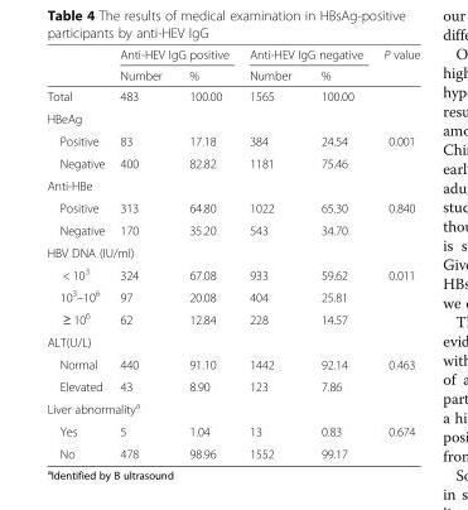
<table><thead><tr><td rowspan="2"></td><td colspan="2">Anti-HEV IgG positive</td><td colspan="2">Anti-HEV IgG negative</td><td rowspan="2">P value</td></tr><tr><td>Number</td><td>%</td><td>Number</td><td>%</td></tr></thead><tbody><tr><td>Total</td><td>483</td><td>100.00</td><td>1565</td><td>100.00</td><td></td></tr><tr><td colspan="6">HBeAg</td></tr><tr><td>Positive</td><td>83</td><td>17.18</td><td>384</td><td>24.54</td><td>0.001</td></tr><tr><td>Negative</td><td>400</td><td>82.82</td><td>1181</td><td>75.46</td><td></td></tr><tr><td colspan="6">Anti-HBe</td></tr><tr><td>Positive</td><td>313</td><td>64.80</td><td>1022</td><td>65.30</td><td>0.840</td></tr><tr><td>Negative</td><td>170</td><td>35.20</td><td>543</td><td>34.70</td><td></td></tr><tr><td colspan="6">HBV DNA (IU/ml)</td></tr><tr><td>&lt; 10<sup>3</sup></td><td>324</td><td>67.08</td><td>933</td><td>59.62</td><td>0.011</td></tr><tr><td>10<sup>3</sup>–10<sup>6</sup></td><td>97</td><td>20.08</td><td>404</td><td>25.81</td><td></td></tr><tr><td>≥ 10<sup>6</sup></td><td>62</td><td>12.84</td><td>228</td><td>14.57</td><td></td></tr><tr><td colspan="6">ALT(U/L)</td></tr><tr><td>Normal</td><td>440</td><td>91.10</td><td>1442</td><td>92.14</td><td>0.463</td></tr><tr><td>Elevated</td><td>43</td><td>8.90</td><td>123</td><td>7.86</td><td></td></tr><tr><td colspan="6">Liver abnormality<sup>a</sup></td></tr><tr><td>Yes</td><td>5</td><td>1.04</td><td>13</td><td>0.83</td><td>0.674</td></tr><tr><td>No</td><td>478</td><td>98.96</td><td>1552</td><td>99.17</td><td></td></tr></tbody></table>